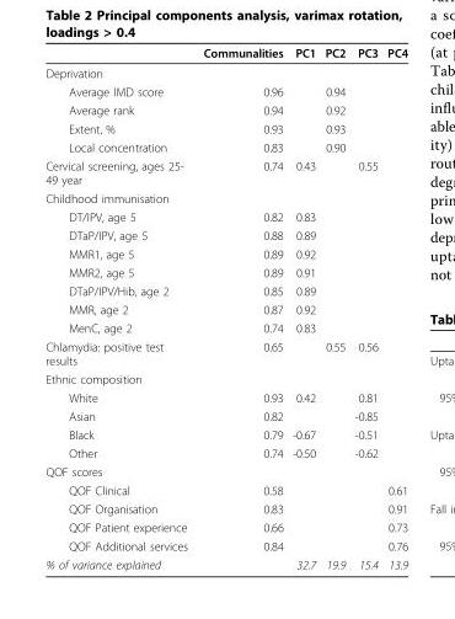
<table><thead><tr><td></td><td>Communalities</td><td>PC1</td><td>PC2</td><td>PC3</td><td>PC4</td></tr></thead><tbody><tr><td colspan="6">Deprivation</td></tr><tr><td>Average IMD score</td><td>0.96</td><td></td><td>0.94</td><td></td><td></td></tr><tr><td>Average rank</td><td>0.94</td><td></td><td>0.92</td><td></td><td></td></tr><tr><td>Extent, %</td><td>0.93</td><td></td><td>0.93</td><td></td><td></td></tr><tr><td>Local concentration</td><td>0.83</td><td></td><td>0.90</td><td></td><td></td></tr><tr><td>Cervical screening, ages 25- 49 year</td><td>0.74</td><td>0.43</td><td></td><td>0.55</td><td></td></tr><tr><td colspan="6">Childhood immunisation</td></tr><tr><td>DT/IPV, age 5</td><td>0.82</td><td>0.83</td><td></td><td></td><td></td></tr><tr><td>DTaP/IPV, age 5</td><td>0.88</td><td>0.89</td><td></td><td></td><td></td></tr><tr><td>MMR1, age 5</td><td>0.89</td><td>0.92</td><td></td><td></td><td></td></tr><tr><td>MMR2, age 5</td><td>0.89</td><td>0.91</td><td></td><td></td><td></td></tr><tr><td>DTaP/IPV/Hib, age 2</td><td>0.85</td><td>0.89</td><td></td><td></td><td></td></tr><tr><td>MMR, age 2</td><td>0.87</td><td>0.92</td><td></td><td></td><td></td></tr><tr><td>MenC, age 2</td><td>0.74</td><td>0.83</td><td></td><td></td><td></td></tr><tr><td>Chlamydia: positive test results</td><td>0.65</td><td></td><td>0.55</td><td>0.56</td><td></td></tr><tr><td colspan="6">Ethnic composition</td></tr><tr><td>White</td><td>0.93</td><td>0.42</td><td></td><td>0.81</td><td></td></tr><tr><td>Asian</td><td>0.82</td><td></td><td></td><td>-0.85</td><td></td></tr><tr><td>Black</td><td>0.79</td><td>-0.67</td><td></td><td>-0.51</td><td></td></tr><tr><td>Other</td><td>0.74</td><td>-0.50</td><td></td><td>-0.62</td><td></td></tr><tr><td colspan="6">QOF scores</td></tr><tr><td>QOF Clinical</td><td>0.58</td><td></td><td></td><td></td><td>0.61</td></tr><tr><td>QOF Organisation</td><td>0.83</td><td></td><td></td><td></td><td>0.91</td></tr><tr><td>QOF Patient experience</td><td>0.66</td><td></td><td></td><td></td><td>0.73</td></tr><tr><td>QOF Additional services</td><td>0.84</td><td></td><td></td><td></td><td>0.76</td></tr><tr><td>% of variance explained</td><td></td><td>32.7</td><td>19.9</td><td>15.4</td><td>13.9</td></tr></tbody></table>